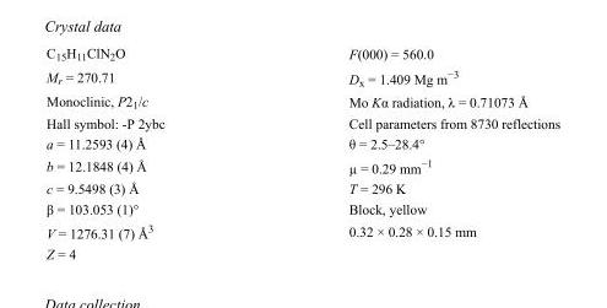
<table><tbody><tr><td>C<sub>15</sub>H<sub>11</sub>ClN<sub>2</sub>O</td><td>F(000) = 560.0</td></tr><tr><td>M<sub>r</sub> = 270.71</td><td>D<sub>x</sub> = 1.409 Mg m<sup>−3</sup></td></tr><tr><td>Monoclinic, P2<sub>1</sub>/c</td><td>Mo Kα radiation, λ = 0.71073 Å</td></tr><tr><td>Hall symbol: -P 2ybc</td><td>Cell parameters from 8730 reflections</td></tr><tr><td>a = 11.2593 (4) Å</td><td>θ = 2.5–28.4°</td></tr><tr><td>b = 12.1848 (4) Å</td><td>µ = 0.29 mm<sup>−1</sup></td></tr><tr><td>c = 9.5498 (3) Å</td><td>T = 296 K</td></tr><tr><td>β = 103.053 (1)°</td><td>Block, yellow</td></tr><tr><td>V = 1276.31 (7) Å<sup>3</sup></td><td>0.32 × 0.28 × 0.15 mm</td></tr><tr><td>Z = 4</td><td></td></tr></tbody></table>